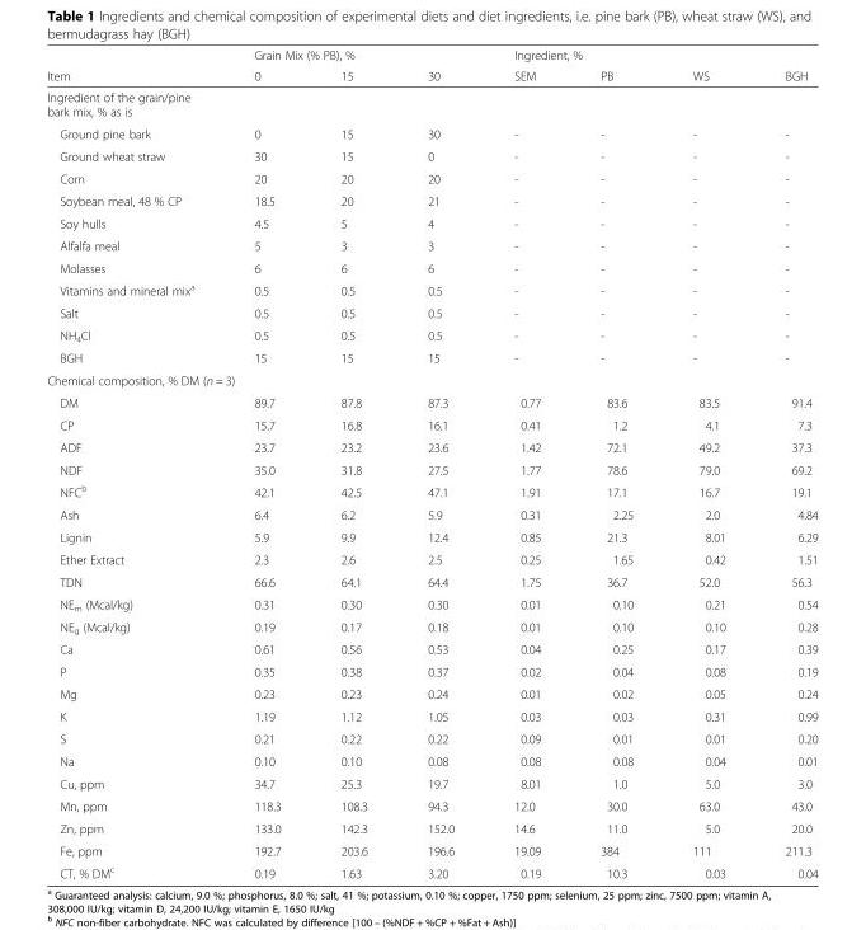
<table><thead><tr><td rowspan="2">Item</td><td colspan="3">Grain Mix (% PB), %</td><td colspan="4">Ingredient, %</td></tr><tr><td>0</td><td>15</td><td>30</td><td>SEM</td><td>PB</td><td>WS</td><td>BGH</td></tr></thead><tbody><tr><td colspan="8">Ingredient of the grain/pine bark mix, % as is</td></tr><tr><td>Ground pine bark</td><td>0</td><td>15</td><td>30</td><td>-</td><td>-</td><td>-</td><td>-</td></tr><tr><td>Ground wheat straw</td><td>30</td><td>15</td><td>0</td><td>-</td><td>-</td><td>-</td><td>-</td></tr><tr><td>Corn</td><td>20</td><td>20</td><td>20</td><td>-</td><td>-</td><td>-</td><td>-</td></tr><tr><td>Soybean meal, 48 % CP</td><td>18.5</td><td>20</td><td>21</td><td>-</td><td>-</td><td>-</td><td>-</td></tr><tr><td>Soy hulls</td><td>4.5</td><td>5</td><td>4</td><td>-</td><td>-</td><td>-</td><td>-</td></tr><tr><td>Alfalfa meal</td><td>5</td><td>3</td><td>3</td><td>-</td><td>-</td><td>-</td><td>-</td></tr><tr><td>Molasses</td><td>6</td><td>6</td><td>6</td><td>-</td><td>-</td><td>-</td><td>-</td></tr><tr><td>Vitamins and mineral mix<sup>a</sup></td><td>0.5</td><td>0.5</td><td>0.5</td><td>-</td><td>-</td><td>-</td><td>-</td></tr><tr><td>Salt</td><td>0.5</td><td>0.5</td><td>0.5</td><td>-</td><td>-</td><td>-</td><td>-</td></tr><tr><td>NH<sub>4</sub>Cl</td><td>0.5</td><td>0.5</td><td>0.5</td><td>-</td><td>-</td><td>-</td><td>-</td></tr><tr><td>BGH</td><td>15</td><td>15</td><td>15</td><td>-</td><td>-</td><td>-</td><td>-</td></tr><tr><td colspan="8">Chemical composition, % DM (n = 3)</td></tr><tr><td>DM</td><td>89.7</td><td>87.8</td><td>87.3</td><td>0.77</td><td>83.6</td><td>83.5</td><td>91.4</td></tr><tr><td>CP</td><td>15.7</td><td>16.8</td><td>16.1</td><td>0.41</td><td>1.2</td><td>4.1</td><td>7.3</td></tr><tr><td>ADF</td><td>23.7</td><td>23.2</td><td>23.6</td><td>1.42</td><td>72.1</td><td>49.2</td><td>37.3</td></tr><tr><td>NDF</td><td>35.0</td><td>31.8</td><td>27.5</td><td>1.77</td><td>78.6</td><td>79.0</td><td>69.2</td></tr><tr><td>NFC<sup>b</sup></td><td>42.1</td><td>42.5</td><td>47.1</td><td>1.91</td><td>17.1</td><td>16.7</td><td>19.1</td></tr><tr><td>Ash</td><td>6.4</td><td>6.2</td><td>5.9</td><td>0.31</td><td>2.25</td><td>2.0</td><td>4.84</td></tr><tr><td>Lignin</td><td>5.9</td><td>9.9</td><td>12.4</td><td>0.85</td><td>21.3</td><td>8.01</td><td>6.29</td></tr><tr><td>Ether Extract</td><td>2.3</td><td>2.6</td><td>2.5</td><td>0.25</td><td>1.65</td><td>0.42</td><td>1.51</td></tr><tr><td>TDN</td><td>66.6</td><td>64.1</td><td>64.4</td><td>1.75</td><td>36.7</td><td>52.0</td><td>56.3</td></tr><tr><td>NE<sub>m</sub> (Mcal/kg)</td><td>0.31</td><td>0.30</td><td>0.30</td><td>0.01</td><td>0.10</td><td>0.21</td><td>0.54</td></tr><tr><td>NE<sub>g</sub> (Mcal/kg)</td><td>0.19</td><td>0.17</td><td>0.18</td><td>0.01</td><td>0.10</td><td>0.10</td><td>0.28</td></tr><tr><td>Ca</td><td>0.61</td><td>0.56</td><td>0.53</td><td>0.04</td><td>0.25</td><td>0.17</td><td>0.39</td></tr><tr><td>P</td><td>0.35</td><td>0.38</td><td>0.37</td><td>0.02</td><td>0.04</td><td>0.08</td><td>0.19</td></tr><tr><td>Mg</td><td>0.23</td><td>0.23</td><td>0.24</td><td>0.01</td><td>0.02</td><td>0.05</td><td>0.24</td></tr><tr><td>K</td><td>1.19</td><td>1.12</td><td>1.05</td><td>0.03</td><td>0.03</td><td>0.31</td><td>0.99</td></tr><tr><td>S</td><td>0.21</td><td>0.22</td><td>0.22</td><td>0.09</td><td>0.01</td><td>0.01</td><td>0.20</td></tr><tr><td>Na</td><td>0.10</td><td>0.10</td><td>0.08</td><td>0.08</td><td>0.08</td><td>0.04</td><td>0.01</td></tr><tr><td>Cu, ppm</td><td>34.7</td><td>25.3</td><td>19.7</td><td>8.01</td><td>1.0</td><td>5.0</td><td>3.0</td></tr><tr><td>Mn, ppm</td><td>118.3</td><td>108.3</td><td>94.3</td><td>12.0</td><td>30.0</td><td>63.0</td><td>43.0</td></tr><tr><td>Zn, ppm</td><td>133.0</td><td>142.3</td><td>152.0</td><td>14.6</td><td>11.0</td><td>5.0</td><td>20.0</td></tr><tr><td>Fe, ppm</td><td>192.7</td><td>203.6</td><td>196.6</td><td>19.09</td><td>384</td><td>111</td><td>211.3</td></tr><tr><td>CT, % DM<sup>c</sup></td><td>0.19</td><td>1.63</td><td>3.20</td><td>0.19</td><td>10.3</td><td>0.03</td><td>0.04</td></tr></tbody></table>